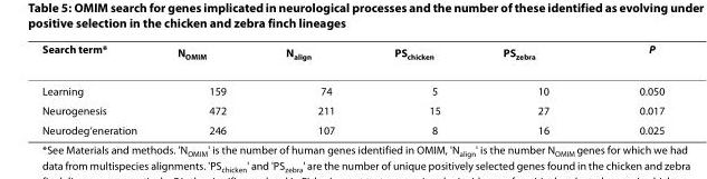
<table><thead><tr><td>Search term*</td><td>N<sub>OMIM</sub></td><td>N<sub>align</sub></td><td>PS<sub>chicken</sub></td><td>PS<sub>zebra</sub></td><td>P</td></tr></thead><tbody><tr><td>Learning</td><td>159</td><td>74</td><td>5</td><td>10</td><td>0.050</td></tr><tr><td>Neurogenesis</td><td>472</td><td>211</td><td>15</td><td>27</td><td>0.017</td></tr><tr><td>Neurodeg‘eneration</td><td>246</td><td>107</td><td>8</td><td>16</td><td>0.025</td></tr></tbody></table>